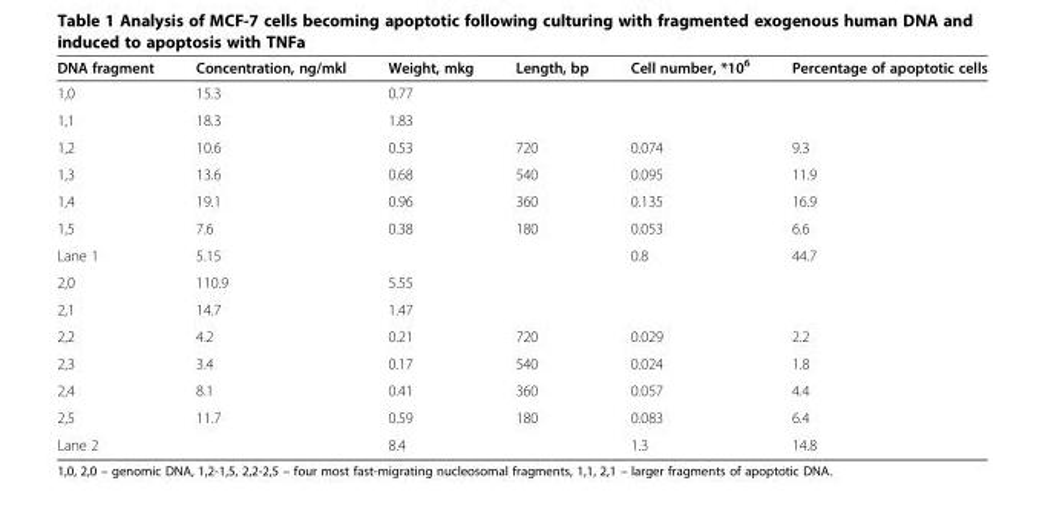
<table><thead><tr><td>DNA fragment</td><td>Concentration, ng/mkl</td><td>Weight, mkg</td><td>Length, bp</td><td>Cell number, *10<sup>6</sup></td><td>Percentage of apoptotic cells</td></tr></thead><tbody><tr><td>1,0</td><td>15.3</td><td>0.77</td><td></td><td></td><td></td></tr><tr><td>1,1</td><td>18.3</td><td>1.83</td><td></td><td></td><td></td></tr><tr><td>1,2</td><td>10.6</td><td>0.53</td><td>720</td><td>0.074</td><td>9.3</td></tr><tr><td>1,3</td><td>13.6</td><td>0.68</td><td>540</td><td>0.095</td><td>11.9</td></tr><tr><td>1,4</td><td>19.1</td><td>0.96</td><td>360</td><td>0.135</td><td>16.9</td></tr><tr><td>1,5</td><td>7.6</td><td>0.38</td><td>180</td><td>0.053</td><td>6.6</td></tr><tr><td>Lane 1</td><td>5.15</td><td></td><td></td><td>0.8</td><td>44.7</td></tr><tr><td>2,0</td><td>110.9</td><td>5.55</td><td></td><td></td><td></td></tr><tr><td>2,1</td><td>14.7</td><td>1.47</td><td></td><td></td><td></td></tr><tr><td>2,2</td><td>4.2</td><td>0.21</td><td>720</td><td>0.029</td><td>2.2</td></tr><tr><td>2,3</td><td>3.4</td><td>0.17</td><td>540</td><td>0.024</td><td>1.8</td></tr><tr><td>2,4</td><td>8.1</td><td>0.41</td><td>360</td><td>0.057</td><td>4.4</td></tr><tr><td>2,5</td><td>11.7</td><td>0.59</td><td>180</td><td>0.083</td><td>6.4</td></tr><tr><td>Lane 2</td><td></td><td>8.4</td><td></td><td>1.3</td><td>14.8</td></tr></tbody></table>